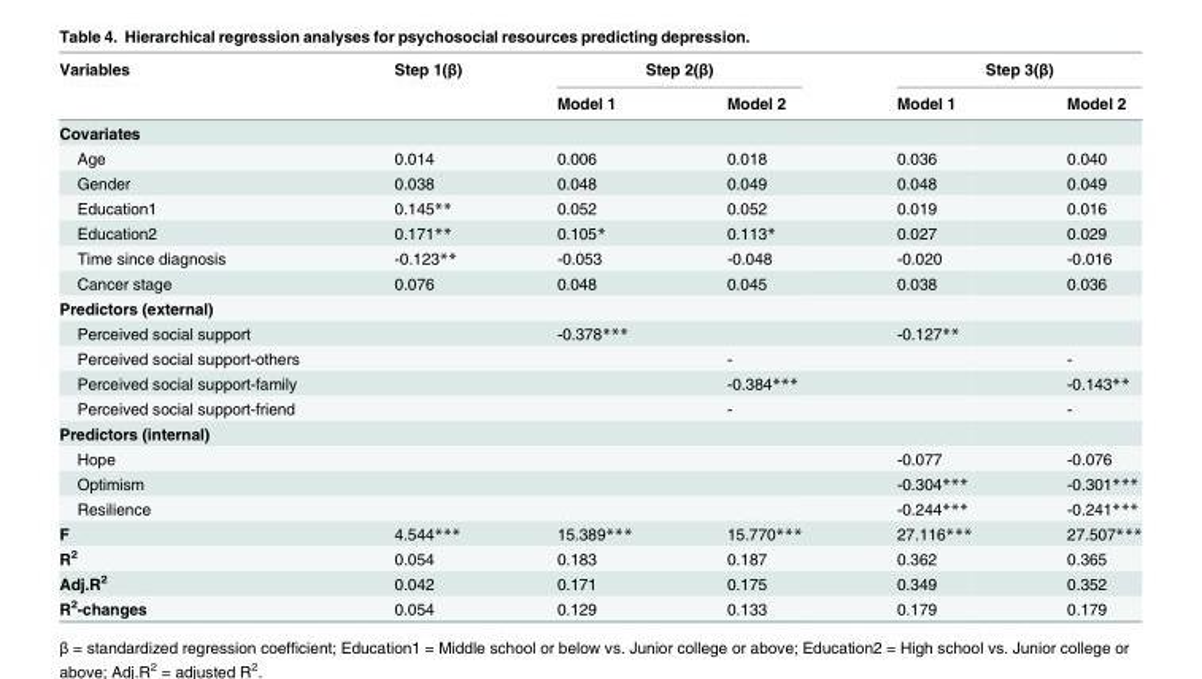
<table><thead><tr><td rowspan="2">Variables</td><td rowspan="2">Step 1(β)</td><td colspan="2">Step 2(β)</td><td colspan="2">Step 3(β)</td></tr><tr><td>Model 1</td><td>Model 2</td><td>Model 1</td><td>Model 2</td></tr></thead><tbody><tr><td colspan="6">Covariates</td></tr><tr><td>Age</td><td>0.014</td><td>0.006</td><td>0.018</td><td>0.036</td><td>0.040</td></tr><tr><td>Gender</td><td>0.038</td><td>0.048</td><td>0.049</td><td>0.048</td><td>0.049</td></tr><tr><td>Education1</td><td>0.145**</td><td>0.052</td><td>0.052</td><td>0.019</td><td>0.016</td></tr><tr><td>Education2</td><td>0.171**</td><td>0.105*</td><td>0.113*</td><td>0.027</td><td>0.029</td></tr><tr><td>Time since diagnosis</td><td>-0.123**</td><td>-0.053</td><td>-0.048</td><td>-0.020</td><td>-0.016</td></tr><tr><td>Cancer stage</td><td>0.076</td><td>0.048</td><td>0.045</td><td>0.038</td><td>0.036</td></tr><tr><td colspan="6">Predictors (external)</td></tr><tr><td>Perceived social support</td><td></td><td>-0.378***</td><td></td><td>-0.127**</td><td></td></tr><tr><td>Perceived social support-others</td><td></td><td></td><td>-</td><td></td><td>-</td></tr><tr><td>Perceived social support-family</td><td></td><td></td><td>-0.384***</td><td></td><td>-0.143**</td></tr><tr><td>Perceived social support-friend</td><td></td><td></td><td>-</td><td></td><td>-</td></tr><tr><td colspan="6">Predictors (internal)</td></tr><tr><td>Hope</td><td></td><td></td><td></td><td>-0.077</td><td>-0.076</td></tr><tr><td>Optimism</td><td></td><td></td><td></td><td>-0.304***</td><td>-0.301***</td></tr><tr><td>Resilience</td><td></td><td></td><td></td><td>-0.244***</td><td>-0.241***</td></tr><tr><td>F</td><td>4.544***</td><td>15.389***</td><td>15.770***</td><td>27.116***</td><td>27.507***</td></tr><tr><td>R<sup>2</sup></td><td>0.054</td><td>0.183</td><td>0.187</td><td>0.362</td><td>0.365</td></tr><tr><td>Adj.R<sup>2</sup></td><td>0.042</td><td>0.171</td><td>0.175</td><td>0.349</td><td>0.352</td></tr><tr><td>R<sup>2</sup>-changes</td><td>0.054</td><td>0.129</td><td>0.133</td><td>0.179</td><td>0.179</td></tr></tbody></table>